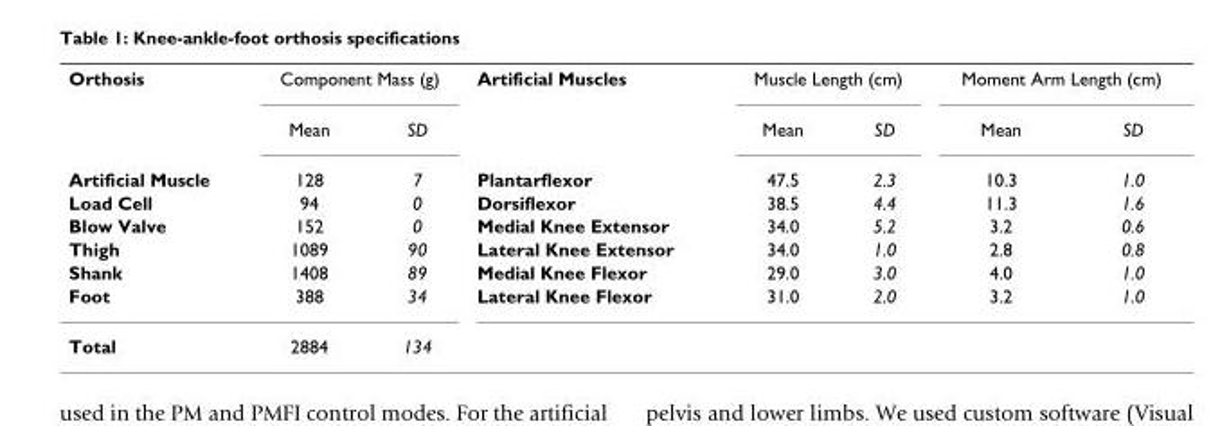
<table><tbody><tr><td rowspan="2">Orthosis</td><td colspan="2">Component Mass (g)</td><td>Artificial Muscles</td><td colspan="2">Muscle Length (cm)</td><td colspan="2">Moment Arm Length (cm)</td></tr><tr><td>Mean</td><td>SD</td><td></td><td>Mean</td><td>SD</td><td>Mean</td><td>SD</td></tr><tr><td>Artificial Muscle</td><td>128</td><td>7</td><td>Plantarflexor</td><td>47.5</td><td>2.3</td><td>10.3</td><td>1.0</td></tr><tr><td>Load Cell</td><td>94</td><td>0</td><td>Dorsiflexor</td><td>38.5</td><td>4.4</td><td>11.3</td><td>1.6</td></tr><tr><td>Blow Valve</td><td>152</td><td>0</td><td>Medial Knee Extensor</td><td>34.0</td><td>5.2</td><td>3.2</td><td>0.6</td></tr><tr><td>Thigh</td><td>1089</td><td>90</td><td>Lateral Knee Extensor</td><td>34.0</td><td>1.0</td><td>2.8</td><td>0.8</td></tr><tr><td>Shank</td><td>1408</td><td>89</td><td>Medial Knee Flexor</td><td>29.0</td><td>3.0</td><td>4.0</td><td>1.0</td></tr><tr><td>Foot</td><td>388</td><td>34</td><td>Lateral Knee Flexor</td><td>31.0</td><td>2.0</td><td>3.2</td><td>1.0</td></tr><tr><td>Total</td><td>2884</td><td>134</td><td></td><td></td><td></td><td></td><td></td></tr></tbody></table>